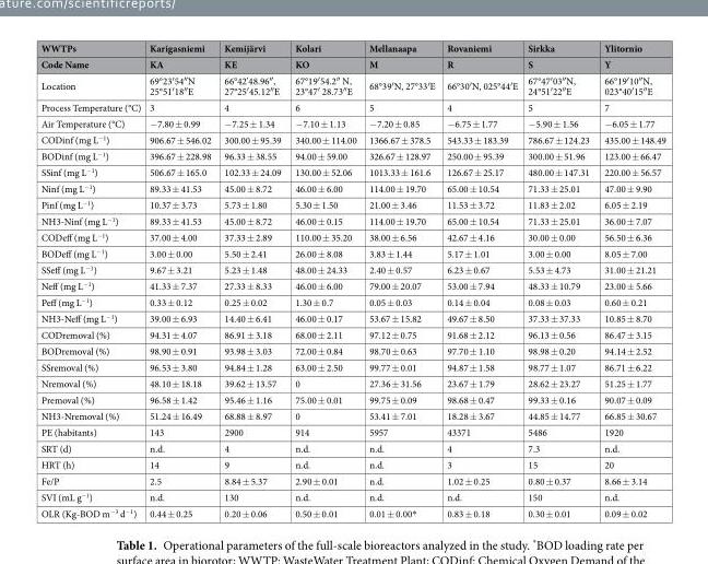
<table><thead><tr><td rowspan="2">WWTPs Code Name</td><td rowspan="2">Karigasniemi KA</td><td rowspan="2">Kemijärvi KE</td><td rowspan="2">Kolari KO</td><td rowspan="2">Mellanaapa M</td><td rowspan="2">Rovaniemi R</td><td rowspan="2">Sirkka S</td><td rowspan="2">Ylitornio Y</td></tr><tr></tr></thead><tbody><tr><td>Location</td><td>69°23′54″N 25°51′18″E</td><td>66°42&#x27;48.96″, 27°25′45.12″E</td><td>67°19′54.2″ N, 23°47′ 28.73″E</td><td>68°39′N, 27°33′E</td><td>66°30′N, 025°44′E</td><td>67°47′03″N, 24°51′22″E</td><td>66°19′10″N, 023°40′15″E</td></tr><tr><td>Process Temperature (°C)</td><td>3</td><td>4</td><td>6</td><td>5</td><td>4</td><td>5</td><td>7</td></tr><tr><td>Air Temperature (°C)</td><td>−7.80 ± 0.99</td><td>−7.25 ± 1.34</td><td>−7.10 ± 1.13</td><td>−7.20 ± 0.85</td><td>−6.75 ± 1.77</td><td>−5.90 ± 1.56</td><td>−6.05 ± 1.77</td></tr><tr><td>CODinf (mg L<sup>−1</sup>)</td><td>906.67 ± 546.02</td><td>300.00 ± 95.39</td><td>340.00 ± 114.00</td><td>1366.67 ± 378.5</td><td>543.33 ± 183.39</td><td>786.67 ± 124.23</td><td>435.00 ± 148.49</td></tr><tr><td>BODinf (mg L<sup>−1</sup>)</td><td>396.67 ± 228.98</td><td>96.33 ± 38.55</td><td>94.00 ± 59.00</td><td>326.67 ± 128.97</td><td>250.00 ± 95.39</td><td>300.00 ± 51.96</td><td>123.00 ± 66.47</td></tr><tr><td>SSinf (mg L<sup>−1</sup>)</td><td>506.67 ± 165.0</td><td>102.33 ± 24.09</td><td>130.00 ± 52.06</td><td>1013.33 ± 161.6</td><td>126.67 ± 25.17</td><td>480.00 ± 147.31</td><td>220.00 ± 56.57</td></tr><tr><td>Ninf (mg L<sup>−1</sup>)</td><td>89.33 ± 41.53</td><td>45.00 ± 8.72</td><td>46.00 ± 6.00</td><td>114.00 ± 19.70</td><td>65.00 ± 10.54</td><td>71.33 ± 25.01</td><td>47.00 ± 9.90</td></tr><tr><td>Pinf (mg L<sup>−1</sup>)</td><td>10.37 ± 3.73</td><td>5.73 ± 1.80</td><td>5.30 ± 1.50</td><td>21.00 ± 3.46</td><td>11.53 ± 3.72</td><td>11.83 ± 2.02</td><td>6.05 ± 2.19</td></tr><tr><td>NH3-Ninf (mg L<sup>−1</sup>)</td><td>89.33 ± 41.53</td><td>45.00 ± 8.72</td><td>46.00 ± 0.15</td><td>114.00 ± 19.70</td><td>65.00 ± 10.54</td><td>71.33 ± 25.01</td><td>36.00 ± 7.07</td></tr><tr><td>CODeff (mg L<sup>−1</sup>)</td><td>37.00 ± 4.00</td><td>37.33 ± 2.89</td><td>110.00 ± 35.20</td><td>38.00 ± 6.56</td><td>42.67 ± 4.16</td><td>30.00 ± 0.00</td><td>56.50 ± 6.36</td></tr><tr><td>BODeff (mg L<sup>−1</sup>)</td><td>3.00 ± 0.00</td><td>5.50 ± 2.41</td><td>26.00 ± 8.08</td><td>3.83 ± 1.44</td><td>5.17 ± 1.01</td><td>3.00 ± 0.00</td><td>8.05 ± 7.00</td></tr><tr><td>SSeff (mg L<sup>−1</sup>)</td><td>9.67 ± 3.21</td><td>5.23 ± 1.48</td><td>48.00 ± 24.33</td><td>2.40 ± 0.57</td><td>6.23 ± 0.67</td><td>5.53 ± 4.73</td><td>31.00 ± 21.21</td></tr><tr><td>Neff (mg L<sup>−1</sup>)</td><td>41.33 ± 7.37</td><td>27.33 ± 8.33</td><td>46.00 ± 6.00</td><td>79.00 ± 20.07</td><td>53.00 ± 7.94</td><td>48.33 ± 10.79</td><td>23.00 ± 5.66</td></tr><tr><td>Peff (mg L<sup>−1</sup>)</td><td>0.33 ± 0.12</td><td>0.25 ± 0.02</td><td>1.30 ± 0.7</td><td>0.05 ± 0.03</td><td>0.14 ± 0.04</td><td>0.08 ± 0.03</td><td>0.60 ± 0.21</td></tr><tr><td>NH3-Neff (mg L<sup>−1</sup>)</td><td>39.00 ± 6.93</td><td>14.40 ± 6.41</td><td>46.00 ± 0.17</td><td>53.67 ± 15.82</td><td>49.67 ± 8.50</td><td>37.33 ± 37.33</td><td>10.85 ± 8.70</td></tr><tr><td>CODremoval (%)</td><td>94.31 ± 4.07</td><td>86.91 ± 3.18</td><td>68.00 ± 2.11</td><td>97.12 ± 0.75</td><td>91.68 ± 2.12</td><td>96.13 ± 0.56</td><td>86.47 ± 3.15</td></tr><tr><td>BODremoval (%)</td><td>98.90 ± 0.91</td><td>93.98 ± 3.03</td><td>72.00 ± 0.84</td><td>98.70 ± 0.63</td><td>97.70 ± 1.10</td><td>98.98 ± 0.20</td><td>94.14 ± 2.52</td></tr><tr><td>SSremoval (%)</td><td>96.53 ± 3.80</td><td>94.84 ± 1.28</td><td>63.00 ± 2.50</td><td>99.77 ± 0.01</td><td>94.87 ± 1.58</td><td>98.77 ± 1.07</td><td>86.71 ± 6.22</td></tr><tr><td>Nremoval (%)</td><td>48.10 ± 18.18</td><td>39.62 ± 13.57</td><td>0</td><td>27.36 ± 31.56</td><td>23.67 ± 1.79</td><td>28.62 ± 23.27</td><td>51.25 ± 1.77</td></tr><tr><td>Premoval (%)</td><td>96.58 ± 1.42</td><td>95.46 ± 1.16</td><td>75.00 ± 0.01</td><td>99.75 ± 0.09</td><td>98.68 ± 0.47</td><td>99.33 ± 0.16</td><td>90.07 ± 0.09</td></tr><tr><td>NH3-Nremoval (%)</td><td>51.24 ± 16.49</td><td>68.88 ± 8.97</td><td>0</td><td>53.41 ± 7.01</td><td>18.28 ± 3.67</td><td>44.85 ± 14.77</td><td>66.85 ± 30.67</td></tr><tr><td>PE (habitants)</td><td>143</td><td>2900</td><td>914</td><td>5957</td><td>43371</td><td>5486</td><td>1920</td></tr><tr><td>SRT (d)</td><td>n.d.</td><td>4</td><td>n.d.</td><td>n.d.</td><td>4</td><td>7.3</td><td>n.d.</td></tr><tr><td>HRT (h)</td><td>14</td><td>9</td><td>n.d.</td><td>n.d.</td><td>3</td><td>15</td><td>20</td></tr><tr><td>Fe/P</td><td>2.5</td><td>8.84 ± 5.37</td><td>2.90 ± 0.01</td><td>n.d.</td><td>1.02 ± 0.25</td><td>0.80 ± 0.37</td><td>8.66 ± 3.14</td></tr><tr><td>SVI (mL g<sup>−1</sup>)</td><td>n.d.</td><td>130</td><td>n.d.</td><td>n.d.</td><td>n.d.</td><td>150</td><td>n.d.</td></tr><tr><td>OLR (Kg-BOD m<sup>−3</sup> d<sup>−1</sup>)</td><td>0.44 ± 0.25</td><td>0.20 ± 0.06</td><td>0.50 ± 0.01</td><td>0.01 ± 0.00*</td><td>0.83 ± 0.18</td><td>0.30 ± 0.01</td><td>0.09 ± 0.02</td></tr></tbody></table>